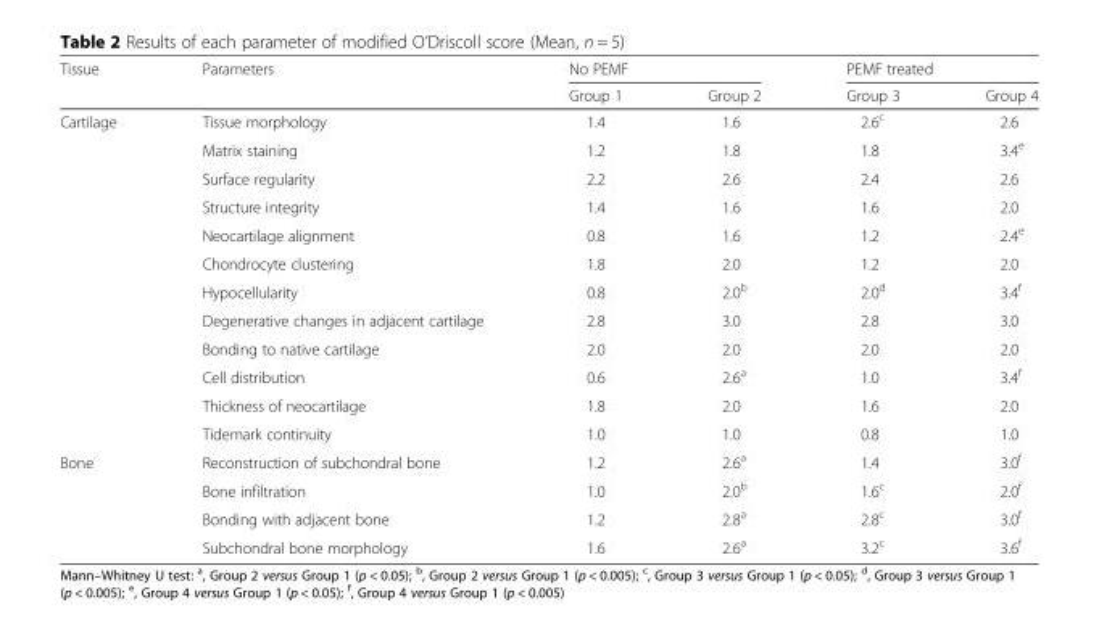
<table><thead><tr><td rowspan="2">Tissue</td><td rowspan="2">Parameters</td><td colspan="2">No PEMF</td><td colspan="2">PEMF treated</td></tr><tr><td>Group 1</td><td>Group 2</td><td>Group 3</td><td>Group 4</td></tr></thead><tbody><tr><td rowspan="12">Cartilage</td><td>Tissue morphology</td><td>1.4</td><td>1.6</td><td>2.6<sup>c</sup></td><td>2.6</td></tr><tr><td>Matrix staining</td><td>1.2</td><td>1.8</td><td>1.8</td><td>3.4<sup>e</sup></td></tr><tr><td>Surface regularity</td><td>2.2</td><td>2.6</td><td>2.4</td><td>2.6</td></tr><tr><td>Structure integrity</td><td>1.4</td><td>1.6</td><td>1.6</td><td>2.0</td></tr><tr><td>Neocartilage alignment</td><td>0.8</td><td>1.6</td><td>1.2</td><td>2.4<sup>e</sup></td></tr><tr><td>Chondrocyte clustering</td><td>1.8</td><td>2.0</td><td>1.2</td><td>2.0</td></tr><tr><td>Hypocellularity</td><td>0.8</td><td>2.0<sup>b</sup></td><td>2.0<sup>d</sup></td><td>3.4<sup>f</sup></td></tr><tr><td>Degenerative changes in adjacent cartilage</td><td>2.8</td><td>3.0</td><td>2.8</td><td>3.0</td></tr><tr><td>Bonding to native cartilage</td><td>2.0</td><td>2.0</td><td>2.0</td><td>2.0</td></tr><tr><td>Cell distribution</td><td>0.6</td><td>2.6<sup>a</sup></td><td>1.0</td><td>3.4<sup>f</sup></td></tr><tr><td>Thickness of neocartilage</td><td>1.8</td><td>2.0</td><td>1.6</td><td>2.0</td></tr><tr><td>Tidemark continuity</td><td>1.0</td><td>1.0</td><td>0.8</td><td>1.0</td></tr><tr><td rowspan="4">Bone</td><td>Reconstruction of subchondral bone</td><td>1.2</td><td>2.6<sup>a</sup></td><td>1.4</td><td>3.0<sup>f</sup></td></tr><tr><td>Bone infiltration</td><td>1.0</td><td>2.0<sup>b</sup></td><td>1.6<sup>c</sup></td><td>2.0<sup>f</sup></td></tr><tr><td>Bonding with adjacent bone</td><td>1.2</td><td>2.8<sup>a</sup></td><td>2.8<sup>c</sup></td><td>3.0<sup>f</sup></td></tr><tr><td>Subchondral bone morphology</td><td>1.6</td><td>2.6<sup>a</sup></td><td>3.2<sup>c</sup></td><td>3.6<sup>f</sup></td></tr></tbody></table>